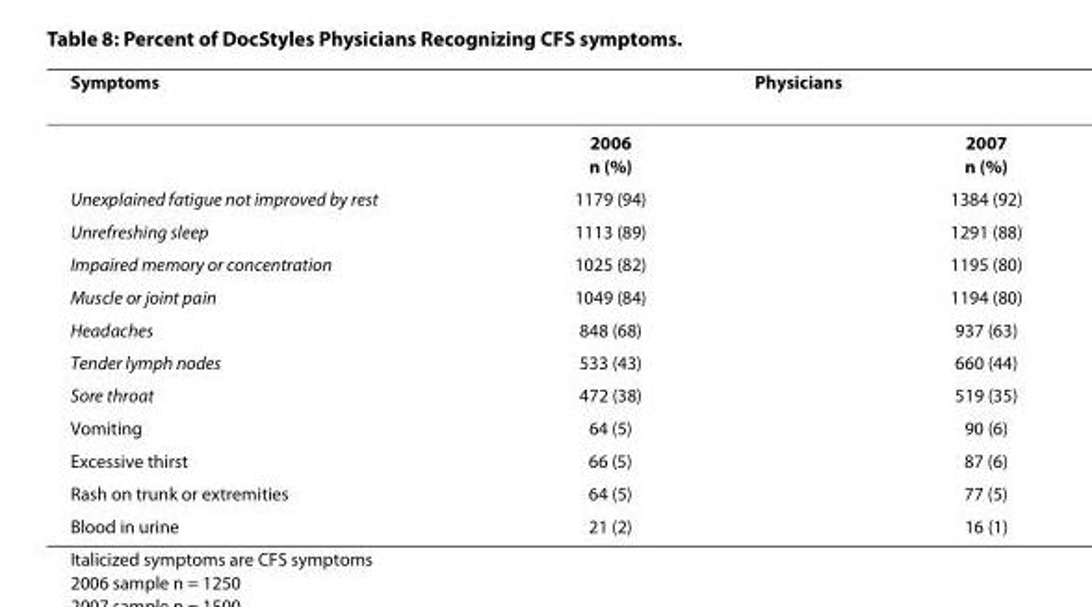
<table><thead><tr><td rowspan="2">Symptoms</td><td colspan="2">Physicians</td></tr><tr><td>2006 n (%)</td><td>2007 n (%)</td></tr></thead><tbody><tr><td>Unexplained fatigue not improved by rest</td><td>1179 (94)</td><td>1384 (92)</td></tr><tr><td>Unrefreshing sleep</td><td>1113 (89)</td><td>1291 (88)</td></tr><tr><td>Impaired memory or concentration</td><td>1025 (82)</td><td>1195 (80)</td></tr><tr><td>Muscle or joint pain</td><td>1049 (84)</td><td>1194 (80)</td></tr><tr><td>Headaches</td><td>848 (68)</td><td>937 (63)</td></tr><tr><td>Tender lymph nodes</td><td>533 (43)</td><td>660 (44)</td></tr><tr><td>Sore throat</td><td>472 (38)</td><td>519 (35)</td></tr><tr><td>Vomiting</td><td>64 (5)</td><td>90 (6)</td></tr><tr><td>Excessive thirst</td><td>66 (5)</td><td>87 (6)</td></tr><tr><td>Rash on trunk or extremities</td><td>64 (5)</td><td>77 (5)</td></tr><tr><td>Blood in urine</td><td>21 (2)</td><td>16 (1)</td></tr></tbody></table>